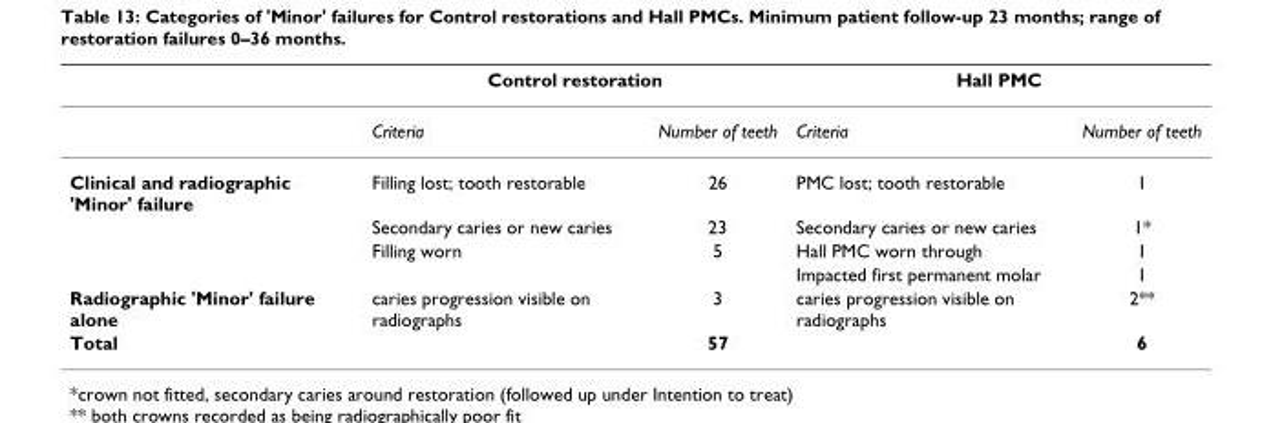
<table><thead><tr><td rowspan="2"></td><td colspan="2">Control restoration</td><td colspan="2">Hall PMC</td></tr><tr><td>Criteria</td><td>Number of teeth</td><td>Criteria</td><td>Number of teeth</td></tr></thead><tbody><tr><td rowspan="4">Clinical and radiographic &#x27;Minor&#x27; failure</td><td>Filling lost; tooth restorable</td><td>26</td><td>PMC lost; tooth restorable</td><td>1</td></tr><tr><td>Secondary caries or new caries</td><td>23</td><td>Secondary caries or new caries</td><td>1*</td></tr><tr><td>Filling worn</td><td>5</td><td>Hall PMC worn through</td><td>1</td></tr><tr><td></td><td></td><td>Impacted first permanent molar</td><td>1</td></tr><tr><td>Radiographic &#x27;Minor&#x27; failure alone</td><td>caries progression visible on radiographs</td><td>3</td><td>caries progression visible on radiographs</td><td>2**</td></tr><tr><td>Total</td><td></td><td>57</td><td></td><td>6</td></tr></tbody></table>